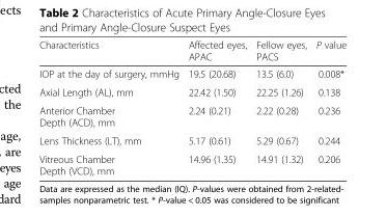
<table><thead><tr><td>Characteristics</td><td>Affected eyes, APAC</td><td>Fellow eyes, PACS</td><td>P value</td></tr></thead><tbody><tr><td>IOP at the day of surgery, mmHg</td><td>19.5 (20.68)</td><td>13.5 (6.0)</td><td>0.008*</td></tr><tr><td>Axial Length (AL), mm</td><td>22.42 (1.50)</td><td>22.25 (1.26)</td><td>0.138</td></tr><tr><td>Anterior Chamber Depth (ACD), mm</td><td>2.24 (0.21)</td><td>2.22 (0.28)</td><td>0.236</td></tr><tr><td>Lens Thickness (LT), mm</td><td>5.17 (0.61)</td><td>5.29 (0.67)</td><td>0.244</td></tr><tr><td>Vitreous Chamber Depth (VCD), mm</td><td>14.96 (1.35)</td><td>14.91 (1.32)</td><td>0.206</td></tr></tbody></table>